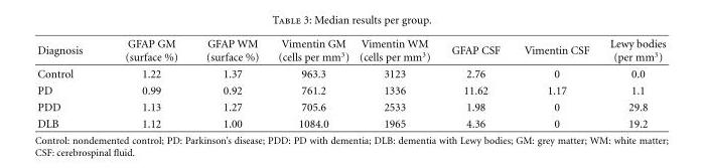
<table><thead><tr><td>Diagnosis</td><td>GFAP GM (surface %)</td><td>GFAP WM (surface %)</td><td>Vimentin GM (cells per mm<sup>3</sup>)</td><td>Vimentin WM (cells per mm<sup>3</sup>)</td><td>GFAP CSF</td><td>Vimentin CSF</td><td>Lewy bodies (per mm<sup>3</sup>)</td></tr></thead><tbody><tr><td>Control</td><td>1.22</td><td>1.37</td><td>963.3</td><td>3123</td><td>2.76</td><td>0</td><td>0.0</td></tr><tr><td>PD</td><td>0.99</td><td>0.92</td><td>761.2</td><td>1336</td><td>11.62</td><td>1.17</td><td>1.1</td></tr><tr><td>PDD</td><td>1.13</td><td>1.27</td><td>705.6</td><td>2533</td><td>1.98</td><td>0</td><td>29.8</td></tr><tr><td>DLB</td><td>1.12</td><td>1.00</td><td>1084.0</td><td>1965</td><td>4.36</td><td>0</td><td>19.2</td></tr></tbody></table>